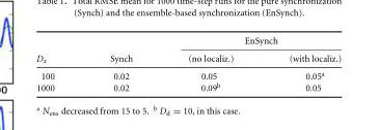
<table><thead><tr><td rowspan="2">D<sub>x</sub></td><td rowspan="2">Synch</td><td colspan="2">EnSynch</td></tr><tr><td>(no localiz.)</td><td>(with localiz.)</td></tr></thead><tbody><tr><td>100</td><td>0.02</td><td>0.05</td><td>0.05<sup>a</sup></td></tr><tr><td>1000</td><td>0.02</td><td>0.09<sup>b</sup></td><td>0.05</td></tr></tbody></table>